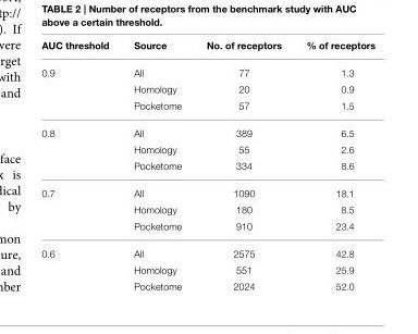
<table><thead><tr><td>AUC threshold</td><td>Source</td><td>No. of receptors</td><td>% of receptors</td></tr></thead><tbody><tr><td rowspan="3">0.9</td><td>All</td><td>77</td><td>1.3</td></tr><tr><td>Homology</td><td>20</td><td>0.9</td></tr><tr><td>Pocketome</td><td>57</td><td>1.5</td></tr><tr><td rowspan="3">0.8</td><td>All</td><td>389</td><td>6.5</td></tr><tr><td>Homology</td><td>55</td><td>2.6</td></tr><tr><td>Pocketome</td><td>334</td><td>8.6</td></tr><tr><td rowspan="3">0.7</td><td>All</td><td>1090</td><td>18.1</td></tr><tr><td>Homology</td><td>180</td><td>8.5</td></tr><tr><td>Pocketome</td><td>910</td><td>23.4</td></tr><tr><td rowspan="3">0.6</td><td>All</td><td>2575</td><td>42.8</td></tr><tr><td>Homology</td><td>551</td><td>25.9</td></tr><tr><td>Pocketome</td><td>2024</td><td>52.0</td></tr></tbody></table>